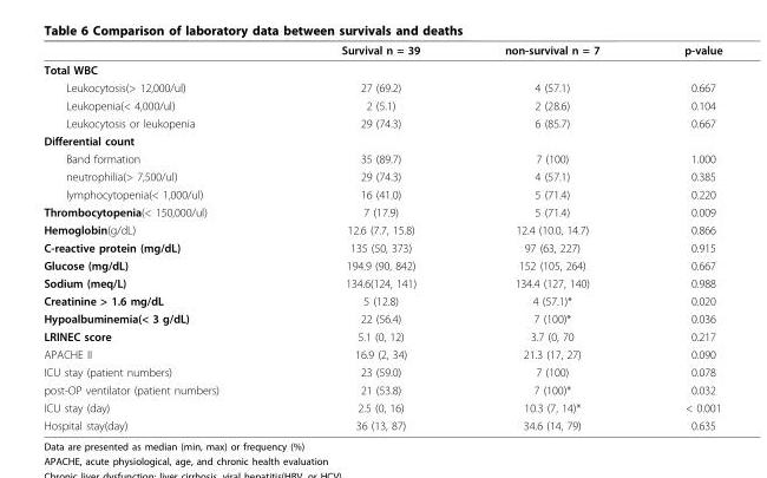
<table><thead><tr><td></td><td>Survival n = 39</td><td>non-survival n = 7</td><td>p-value</td></tr></thead><tbody><tr><td colspan="4">Total WBC</td></tr><tr><td>Leukocytosis(&gt; 12,000/ul)</td><td>27 (69.2)</td><td>4 (57.1)</td><td>0.667</td></tr><tr><td>Leukopenia(&lt; 4,000/ul)</td><td>2 (5.1)</td><td>2 (28.6)</td><td>0.104</td></tr><tr><td>Leukocytosis or leukopenia</td><td>29 (74.3)</td><td>6 (85.7)</td><td>0.667</td></tr><tr><td colspan="4">Differential count</td></tr><tr><td>Band formation</td><td>35 (89.7)</td><td>7 (100)</td><td>1.000</td></tr><tr><td>neutrophilia(&gt; 7,500/ul)</td><td>29 (74.3)</td><td>4 (57.1)</td><td>0.385</td></tr><tr><td>lymphocytopenia(&lt; 1,000/ul)</td><td>16 (41.0)</td><td>5 (71.4)</td><td>0.220</td></tr><tr><td>Thrombocytopenia(&lt; 150,000/ul)</td><td>7 (17.9)</td><td>5 (71.4)</td><td>0.009</td></tr><tr><td>Hemoglobin(g/dL)</td><td>12.6 (7.7, 15.8)</td><td>12.4 (10.0, 14.7)</td><td>0.866</td></tr><tr><td>C-reactive protein (mg/dL)</td><td>135 (50, 373)</td><td>97 (63, 227)</td><td>0.915</td></tr><tr><td>Glucose (mg/dL)</td><td>194.9 (90, 842)</td><td>152 (105, 264)</td><td>0.667</td></tr><tr><td>Sodium (meq/L)</td><td>134.6(124, 141)</td><td>134.4 (127, 140)</td><td>0.988</td></tr><tr><td>Creatinine &gt; 1.6 mg/dL</td><td>5 (12.8)</td><td>4 (57.1)*</td><td>0.020</td></tr><tr><td>Hypoalbuminemia(&lt; 3 g/dL)</td><td>22 (56.4)</td><td>7 (100)*</td><td>0.036</td></tr><tr><td>LRINEC score</td><td>5.1 (0, 12)</td><td>3.7 (0, 70</td><td>0.217</td></tr><tr><td>APACHE II</td><td>16.9 (2, 34)</td><td>21.3 (17, 27)</td><td>0.090</td></tr><tr><td>ICU stay (patient numbers)</td><td>23 (59.0)</td><td>7 (100)</td><td>0.078</td></tr><tr><td>post-OP ventilator (patient numbers)</td><td>21 (53.8)</td><td>7 (100)*</td><td>0.032</td></tr><tr><td>ICU stay (day)</td><td>2.5 (0, 16)</td><td>10.3 (7, 14)*</td><td>&lt; 0.001</td></tr><tr><td>Hospital stay(day)</td><td>36 (13, 87)</td><td>34.6 (14, 79)</td><td>0.635</td></tr></tbody></table>